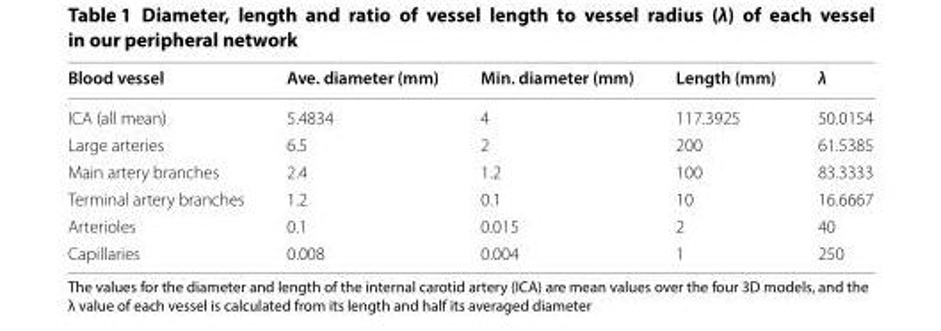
<table><thead><tr><td>Blood vessel</td><td>Ave. diameter (mm)</td><td>Min. diameter (mm)</td><td>Length (mm)</td><td>λ</td></tr></thead><tbody><tr><td>ICA (all mean)</td><td>5.4834</td><td>4</td><td>117.3925</td><td>50.0154</td></tr><tr><td>Large arteries</td><td>6.5</td><td>2</td><td>200</td><td>61.5385</td></tr><tr><td>Main artery branches</td><td>2.4</td><td>1.2</td><td>100</td><td>83.3333</td></tr><tr><td>Terminal artery branches</td><td>1.2</td><td>0.1</td><td>10</td><td>16.6667</td></tr><tr><td>Arterioles</td><td>0.1</td><td>0.015</td><td>2</td><td>40</td></tr><tr><td>Capillaries</td><td>0.008</td><td>0.004</td><td>1</td><td>250</td></tr></tbody></table>